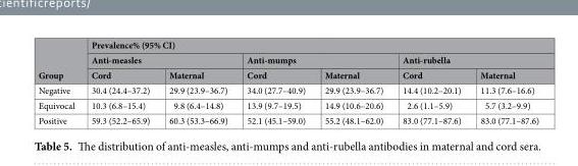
<table><thead><tr><td rowspan="3">Group</td><td colspan="6">Prevalence% (95% CI)</td></tr><tr><td colspan="2">Anti-measles</td><td colspan="2">Anti-mumps</td><td colspan="2">Anti-rubella</td></tr><tr><td>Cord</td><td>Maternal</td><td>Cord</td><td>Maternal</td><td>Cord</td><td>Maternal</td></tr></thead><tbody><tr><td>Negative</td><td>30.4 (24.4–37.2)</td><td>29.9 (23.9–36.7)</td><td>34.0 (27.7–40.9)</td><td>29.9 (23.9–36.7)</td><td>14.4 (10.2–20.1)</td><td>11.3 (7.6–16.6)</td></tr><tr><td>Equivocal</td><td>10.3 (6.8–15.4)</td><td>9.8 (6.4–14.8)</td><td>13.9 (9.7–19.5)</td><td>14.9 (10.6–20.6)</td><td>2.6 (1.1–5.9)</td><td>5.7 (3.2–9.9)</td></tr><tr><td>Positive</td><td>59.3 (52.2–65.9)</td><td>60.3 (53.3–66.9)</td><td>52.1 (45.1–59.0)</td><td>55.2 (48.1–62.0)</td><td>83.0 (77.1–87.6)</td><td>83.0 (77.1–87.6)</td></tr></tbody></table>